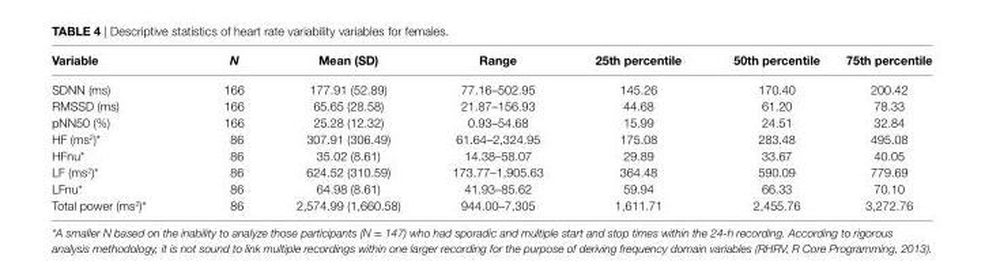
<table><thead><tr><td>Variable</td><td>N</td><td>Mean (sD)</td><td>range</td><td>25th percentile</td><td>50th percentile</td><td>75th percentile</td></tr></thead><tbody><tr><td>SDNN (ms)</td><td>166</td><td>177.91 (52.89)</td><td>77.16–502.95</td><td>145.26</td><td>170.40</td><td>200.42</td></tr><tr><td>RMSSD (ms)</td><td>166</td><td>65.65 (28.58)</td><td>21.87–156.93</td><td>44.68</td><td>61.20</td><td>78.33</td></tr><tr><td>pNN50 (%)</td><td>166</td><td>25.28 (12.32)</td><td>0.93–54.68</td><td>15.99</td><td>24.51</td><td>32.84</td></tr><tr><td>HF (ms<sup>2</sup>)*</td><td>86</td><td>307.91 (306.49)</td><td>61.64–2,324.95</td><td>175.08</td><td>283.48</td><td>495.08</td></tr><tr><td>HFnu*</td><td>86</td><td>35.02 (8.61)</td><td>14.38–58.07</td><td>29.89</td><td>33.67</td><td>40.05</td></tr><tr><td>LF (ms<sup>2</sup>)*</td><td>86</td><td>624.52 (310.59)</td><td>173.77–1,905.63</td><td>364.48</td><td>590.09</td><td>779.69</td></tr><tr><td>LFnu*</td><td>86</td><td>64.98 (8.61)</td><td>41.93–85.62</td><td>59.94</td><td>66.33</td><td>70.10</td></tr><tr><td>Total power (ms<sup>2</sup>)*</td><td>86</td><td>2,574.99 (1,660.58)</td><td>944.00–7,305</td><td>1,611.71</td><td>2,455.76</td><td>3,272.76</td></tr></tbody></table>